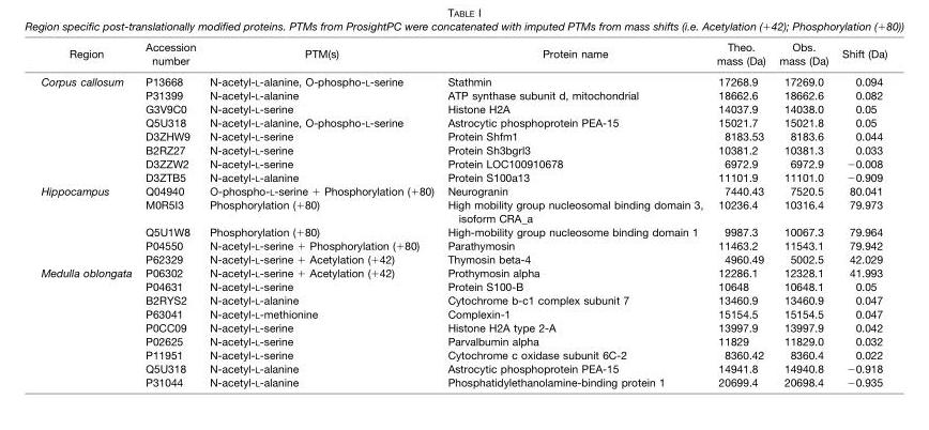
<table><thead><tr><td>Region</td><td>Accession number</td><td>PTM(s)</td><td>Protein name</td><td>Theo. mass (Da)</td><td>Obs. mass (Da)</td><td>Shift (Da)</td></tr></thead><tbody><tr><td rowspan="8">Corpus callosum</td><td>P13668</td><td>N-acetyl-L-alanine, O-phospho-L-serine</td><td>Stathmin</td><td>17268.9</td><td>17269.0</td><td>0.094</td></tr><tr><td>P31399</td><td>N-acetyl-L-alanine</td><td>ATP synthase subunit d, mitochondrial</td><td>18662.6</td><td>18662.6</td><td>0.082</td></tr><tr><td>G3V9C0</td><td>N-acetyl-L-serine</td><td>Histone H2A</td><td>14037.9</td><td>14038.0</td><td>0.05</td></tr><tr><td>Q5U318</td><td>N-acetyl-L-alanine, O-phospho-L-serine</td><td>Astrocytic phosphoprotein PEA-15</td><td>15021.7</td><td>15021.8</td><td>0.05</td></tr><tr><td>D3ZHW9</td><td>N-acetyl-L-serine</td><td>Protein Shfm1</td><td>8183.53</td><td>8183.6</td><td>0.044</td></tr><tr><td>B2RZ27</td><td>N-acetyl-L-serine</td><td>Protein Sh3bgrl3</td><td>10381.2</td><td>10381.3</td><td>0.033</td></tr><tr><td>D3ZZW2</td><td>N-acetyl-L-serine</td><td>Protein LOC100910678</td><td>6972.9</td><td>6972.9</td><td>−0.008</td></tr><tr><td>D3ZTB5</td><td>N-acetyl-L-alanine</td><td>Protein S100a13</td><td>11101.9</td><td>11101.0</td><td>−0.909</td></tr><tr><td rowspan="5">Hippocampus</td><td>Q04940</td><td>O-phospho-L-serine + Phosphorylation (+80)</td><td>Neurogranin</td><td>7440.43</td><td>7520.5</td><td>80.041</td></tr><tr><td>M0R5I3</td><td>Phosphorylation (+80)</td><td>High mobility group nucleosomal binding domain 3, isoform CRA_a</td><td>10236.4</td><td>10316.4</td><td>79.973</td></tr><tr><td>Q5U1W8</td><td>Phosphorylation (+80)</td><td>High-mobility group nucleosome binding domain 1</td><td>9987.3</td><td>10067.3</td><td>79.964</td></tr><tr><td>P04550</td><td>N-acetyl-L-serine + Phosphorylation (+80)</td><td>Parathymosin</td><td>11463.2</td><td>11543.1</td><td>79.942</td></tr><tr><td>P62329</td><td>N-acetyl-L-serine + Acetylation (+42)</td><td>Thymosin beta-4</td><td>4960.49</td><td>5002.5</td><td>42.029</td></tr><tr><td rowspan="9">Medulla oblongata</td><td>P06302</td><td>N-acetyl-L-serine + Acetylation (+42)</td><td>Prothymosin alpha</td><td>12286.1</td><td>12328.1</td><td>41.993</td></tr><tr><td>P04631</td><td>N-acetyl-L-serine</td><td>Protein S100-B</td><td>10648</td><td>10648.1</td><td>0.05</td></tr><tr><td>B2RYS2</td><td>N-acetyl-L-alanine</td><td>Cytochrome b-c1 complex subunit 7</td><td>13460.9</td><td>13460.9</td><td>0.047</td></tr><tr><td>P63041</td><td>N-acetyl-L-methionine</td><td>Complexin-1</td><td>15154.5</td><td>15154.5</td><td>0.047</td></tr><tr><td>P0CC09</td><td>N-acetyl-L-serine</td><td>Histone H2A type 2-A</td><td>13997.9</td><td>13997.9</td><td>0.042</td></tr><tr><td>P02625</td><td>N-acetyl-L-serine</td><td>Parvalbumin alpha</td><td>11829</td><td>11829.0</td><td>0.032</td></tr><tr><td>P11951</td><td>N-acetyl-L-serine</td><td>Cytochrome c oxidase subunit 6C-2</td><td>8360.42</td><td>8360.4</td><td>0.022</td></tr><tr><td>Q5U318</td><td>N-acetyl-L-alanine</td><td>Astrocytic phosphoprotein PEA-15</td><td>14941.8</td><td>14940.8</td><td>−0.918</td></tr><tr><td>P31044</td><td>N-acetyl-L-alanine</td><td>Phosphatidylethanolamine-binding protein 1</td><td>20699.4</td><td>20698.4</td><td>−0.935</td></tr></tbody></table>